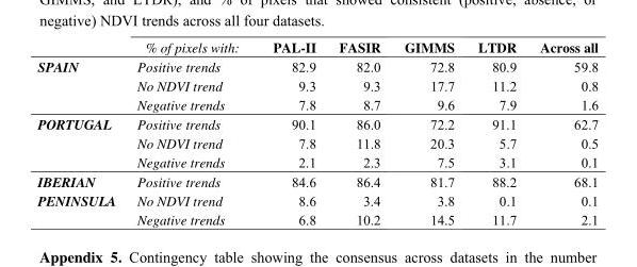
<table><thead><tr><td></td><td>% of pixels with:</td><td>PAL-II</td><td>FASIR</td><td>GIMMS</td><td>LTDR</td><td>Across all</td></tr></thead><tbody><tr><td rowspan="3">SPAIN</td><td>Positive trends</td><td>82.9</td><td>82.0</td><td>72.8</td><td>80.9</td><td>59.8</td></tr><tr><td>No NDVI trend</td><td>9.3</td><td>9.3</td><td>17.7</td><td>11.2</td><td>0.8</td></tr><tr><td>Negative trends</td><td>7.8</td><td>8.7</td><td>9.6</td><td>7.9</td><td>1.6</td></tr><tr><td rowspan="3">PORTUGAL</td><td>Positive trends</td><td>90.1</td><td>86.0</td><td>72.2</td><td>91.1</td><td>62.7</td></tr><tr><td>No NDVI trend</td><td>7.8</td><td>11.8</td><td>20.3</td><td>5.7</td><td>0.5</td></tr><tr><td>Negative trends</td><td>2.1</td><td>2.3</td><td>7.5</td><td>3.1</td><td>0.1</td></tr><tr><td rowspan="3">IBERIAN PENINSULA</td><td>Positive trends</td><td>84.6</td><td>86.4</td><td>81.7</td><td>88.2</td><td>68.1</td></tr><tr><td>No NDVI trend</td><td>8.6</td><td>3.4</td><td>3.8</td><td>0.1</td><td>0.1</td></tr><tr><td>Negative trends</td><td>6.8</td><td>10.2</td><td>14.5</td><td>11.7</td><td>2.1</td></tr></tbody></table>